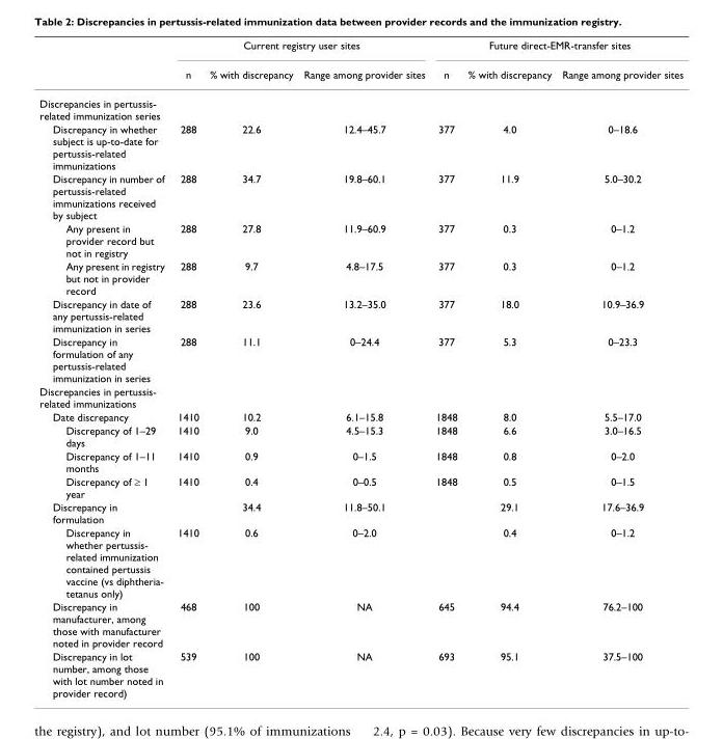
<table><thead><tr><td rowspan="2"></td><td colspan="3">Current registry user sites</td><td colspan="3">Future direct-EMR-transfer sites</td></tr><tr><td>n</td><td>% with discrepancy</td><td>Range among provider sites</td><td>n</td><td>% with discrepancy</td><td>Range among provider sites</td></tr></thead><tbody><tr><td colspan="7">Discrepancies in pertussis- related immunization series</td></tr><tr><td>Discrepancy in whether subject is up-to-date for pertussis-related immunizations</td><td>288</td><td>22.6</td><td>12.4–45.7</td><td>377</td><td>4.0</td><td>0–18.6</td></tr><tr><td>Discrepancy in number of pertussis-related immunizations received by subject</td><td>288</td><td>34.7</td><td>19.8–60.1</td><td>377</td><td>11.9</td><td>5.0–30.2</td></tr><tr><td>Any present in provider record but not in registry</td><td>288</td><td>27.8</td><td>11.9–60.9</td><td>377</td><td>0.3</td><td>0–1.2</td></tr><tr><td>Any present in registry but not in provider record</td><td>288</td><td>9.7</td><td>4.8–17.5</td><td>377</td><td>0.3</td><td>0–1.2</td></tr><tr><td>Discrepancy in date of any pertussis-related immunization in series</td><td>288</td><td>23.6</td><td>13.2–35.0</td><td>377</td><td>18.0</td><td>10.9–36.9</td></tr><tr><td>Discrepancy in formulation of any pertussis-related immunization in series</td><td>288</td><td>11.1</td><td>0–24.4</td><td>377</td><td>5.3</td><td>0–23.3</td></tr><tr><td colspan="7">Discrepancies in pertussis- related immunizations</td></tr><tr><td>Date discrepancy</td><td>1410</td><td>10.2</td><td>6.1–15.8</td><td>1848</td><td>8.0</td><td>5.5–17.0</td></tr><tr><td>Discrepancy of 1–29 days</td><td>1410</td><td>9.0</td><td>4.5–15.3</td><td>1848</td><td>6.6</td><td>3.0–16.5</td></tr><tr><td>Discrepancy of 1–11 months</td><td>1410</td><td>0.9</td><td>0–1.5</td><td>1848</td><td>0.8</td><td>0–2.0</td></tr><tr><td>Discrepancy of ≥ 1 year</td><td>1410</td><td>0.4</td><td>0–0.5</td><td>1848</td><td>0.5</td><td>0–1.5</td></tr><tr><td>Discrepancy in formulation</td><td></td><td>34.4</td><td>11.8–50.1</td><td></td><td>29.1</td><td>17.6–36.9</td></tr><tr><td>Discrepancy in whether pertussis- related immunization contained pertussis vaccine (vs diphtheria- tetanus only)</td><td>1410</td><td>0.6</td><td>0–2.0</td><td></td><td>0.4</td><td>0–1.2</td></tr><tr><td>Discrepancy in manufacturer, among those with manufacturer noted in provider record</td><td>468</td><td>100</td><td>NA</td><td>645</td><td>94.4</td><td>76.2–100</td></tr><tr><td>Discrepancy in lot number, among those with lot number noted in provider record)</td><td>539</td><td>100</td><td>NA</td><td>693</td><td>95.1</td><td>37.5–100</td></tr></tbody></table>